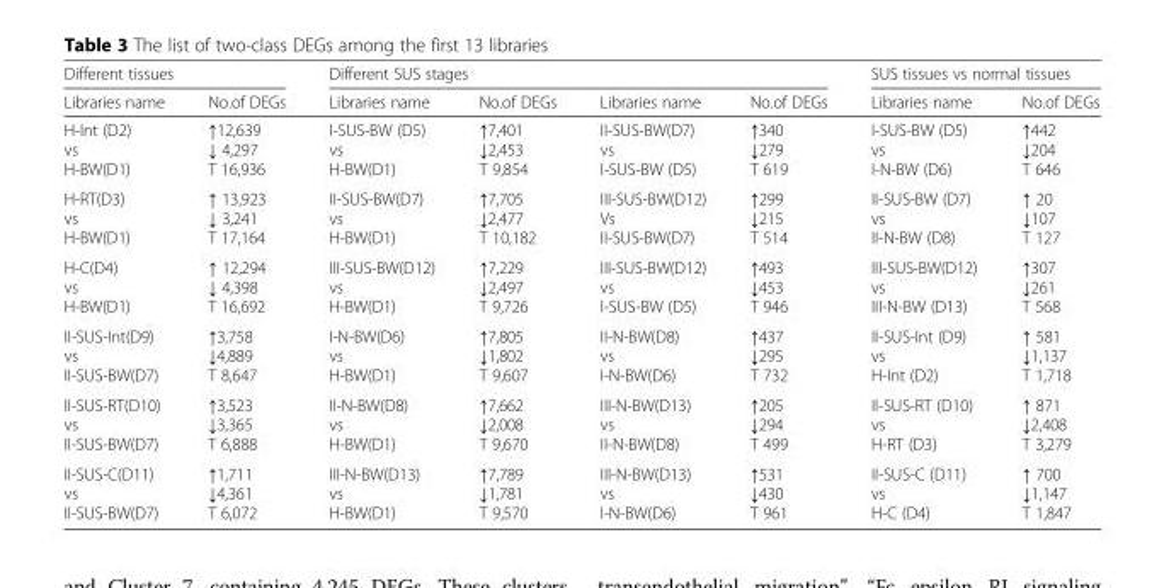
<table><thead><tr><td colspan="2">Different tissues</td><td colspan="4">Different SUS stages</td><td colspan="2">SUS tissues vs normal tissues</td></tr><tr><td>Libraries name</td><td>No.of DEGs</td><td>Libraries name</td><td>No.of DEGs</td><td>Libraries name</td><td>No.of DEGs</td><td>Libraries name</td><td>No.of DEGs</td></tr></thead><tbody><tr><td>H-Int (D2) vs H-BW(D1)</td><td>↑12,639 ↓ 4,297 T 16,936</td><td>I-SUS-BW (D5) vs H-BW(D1)</td><td>↑7,401 ↓2,453 T 9,854</td><td>II-SUS-BW(D7) vs I-SUS-BW (D5)</td><td>↑340 ↓279 T 619</td><td>I-SUS-BW (D5) vs I-N-BW (D6)</td><td>↑442 ↓204 T 646</td></tr><tr><td>H-RT(D3) vs H-BW(D1)</td><td>↑ 13,923 ↓ 3,241 T 17,164</td><td>II-SUS-BW(D7) vs H-BW(D1)</td><td>↑7,705 ↓2,477 T 10,182</td><td>III-SUS-BW(D12) Vs II-SUS-BW(D7)</td><td>↑299 ↓215 T 514</td><td>II-SUS-BW (D7) vs II-N-BW (D8)</td><td>↑ 20 ↓107 T 127</td></tr><tr><td>H-C(D4) vs H-BW(D1)</td><td>↑ 12,294 ↓ 4,398 T 16,692</td><td>III-SUS-BW(D12) vs H-BW(D1)</td><td>↑7,229 ↓2,497 T 9,726</td><td>III-SUS-BW(D12) vs I-SUS-BW (D5)</td><td>↑493 ↓453 T 946</td><td>III-SUS-BW(D12) vs III-N-BW (D13)</td><td>↑307 ↓261 T 568</td></tr><tr><td>II-SUS-Int(D9) vs II-SUS-BW(D7)</td><td>↑3,758 ↓4,889 T 8,647</td><td>I-N-BW(D6) vs H-BW(D1)</td><td>↑7,805 ↓1,802 T 9,607</td><td>II-N-BW(D8) vs I-N-BW(D6)</td><td>↑437 ↓295 T 732</td><td>II-SUS-Int (D9) vs H-Int (D2)</td><td>↑ 581 ↓1,137 T 1,718</td></tr><tr><td>II-SUS-RT(D10) vs II-SUS-BW(D7)</td><td>↑3,523 ↓3,365 T 6,888</td><td>II-N-BW(D8) vs H-BW(D1)</td><td>↑7,662 ↓2,008 T 9,670</td><td>III-N-BW(D13) vs II-N-BW(D8)</td><td>↑205 ↓294 T 499</td><td>II-SUS-RT (D10) vs H-RT (D3)</td><td>↑ 871 ↓2,408 T 3,279</td></tr><tr><td>II-SUS-C(D11) vs II-SUS-BW(D7)</td><td>↑1,711 ↓4,361 T 6,072</td><td>III-N-BW(D13) vs H-BW(D1)</td><td>↑7,789 ↓1,781 T 9,570</td><td>III-N-BW(D13) vs I-N-BW(D6)</td><td>↑531 ↓430 T 961</td><td>II-SUS-C (D11) vs H-C (D4)</td><td>↑ 700 ↓1,147 T 1,847</td></tr></tbody></table>